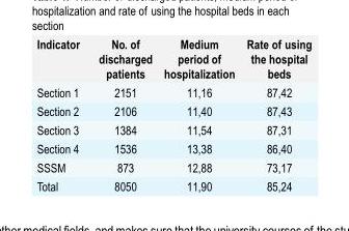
<table><thead><tr><td>Indicator</td><td>No. of discharged patients</td><td>Medium period of hospitalization</td><td>Rate of using the hospital beds</td></tr></thead><tbody><tr><td>Section 1</td><td>2151</td><td>11,16</td><td>87,42</td></tr><tr><td>Section 2</td><td>2106</td><td>11,40</td><td>87,43</td></tr><tr><td>Section 3</td><td>1384</td><td>11,54</td><td>87,31</td></tr><tr><td>Section 4</td><td>1536</td><td>13,38</td><td>86,40</td></tr><tr><td>SSSM</td><td>873</td><td>12,88</td><td>73,17</td></tr><tr><td>Total</td><td>8050</td><td>11,90</td><td>85,24</td></tr></tbody></table>